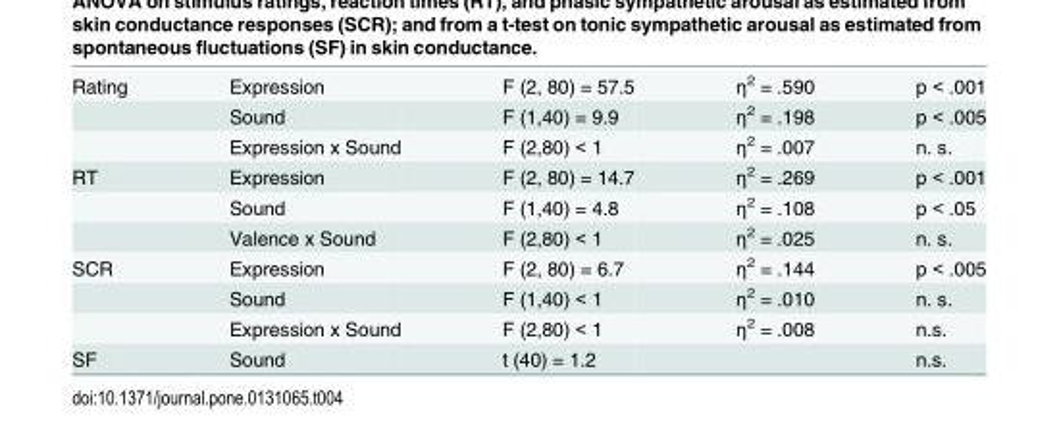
<table><tbody><tr><td rowspan="3">Rating</td><td>Expression</td><td>F (2, 80) = 57.5</td><td>η<sup>2</sup> = .590</td><td>p &lt; .001</td></tr><tr><td>Sound</td><td>F (1,40) = 9.9</td><td>η<sup>2</sup> = .198</td><td>p &lt; .005</td></tr><tr><td>Expression x Sound</td><td>F (2,80) &lt; 1</td><td>η<sup>2</sup> = .007</td><td>n. s.</td></tr><tr><td rowspan="3">RT</td><td>Expression</td><td>F (2, 80) = 14.7</td><td>η<sup>2</sup> = .269</td><td>p &lt; .001</td></tr><tr><td>Sound</td><td>F (1,40) = 4.8</td><td>η<sup>2</sup> = .108</td><td>p &lt; .05</td></tr><tr><td>Valence x Sound</td><td>F (2,80) &lt; 1</td><td>η<sup>2</sup> = .025</td><td>n. s.</td></tr><tr><td rowspan="3">SCR</td><td>Expression</td><td>F (2, 80) = 6.7</td><td>η<sup>2</sup> = .144</td><td>p &lt; .005</td></tr><tr><td>Sound</td><td>F (1,40) &lt; 1</td><td>η<sup>2</sup> = .010</td><td>n. s.</td></tr><tr><td>Expression x Sound</td><td>F (2,80) &lt; 1</td><td>η<sup>2</sup> = .008</td><td>n.s.</td></tr><tr><td>SF</td><td>Sound</td><td>t (40) = 1.2</td><td></td><td>n.s.</td></tr></tbody></table>